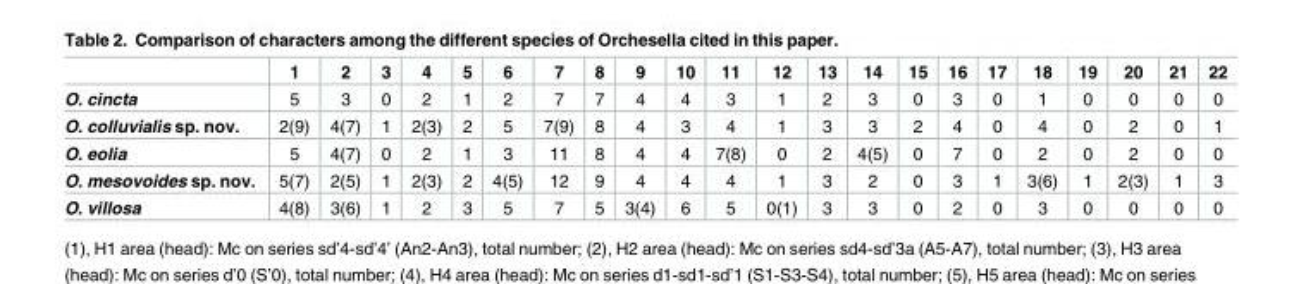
<table><thead><tr><td></td><td>1</td><td>2</td><td>3</td><td>4</td><td>5</td><td>6</td><td>7</td><td>8</td><td>9</td><td>10</td><td>11</td><td>12</td><td>13</td><td>14</td><td>15</td><td>16</td><td>17</td><td>18</td><td>19</td><td>20</td><td>21</td><td>22</td></tr></thead><tbody><tr><td>O. cincta</td><td>5</td><td>3</td><td>0</td><td>2</td><td>1</td><td>2</td><td>7</td><td>7</td><td>4</td><td>4</td><td>3</td><td>1</td><td>2</td><td>3</td><td>0</td><td>3</td><td>0</td><td>1</td><td>0</td><td>0</td><td>0</td><td>0</td></tr><tr><td>O. colluvialis sp. nov.</td><td>2(9)</td><td>4(7)</td><td>1</td><td>2(3)</td><td>2</td><td>5</td><td>7(9)</td><td>8</td><td>4</td><td>3</td><td>4</td><td>1</td><td>3</td><td>3</td><td>2</td><td>4</td><td>0</td><td>4</td><td>0</td><td>2</td><td>0</td><td>1</td></tr><tr><td>O. eolia</td><td>5</td><td>4(7)</td><td>0</td><td>2</td><td>1</td><td>3</td><td>11</td><td>8</td><td>4</td><td>4</td><td>7(8)</td><td>0</td><td>2</td><td>4(5)</td><td>0</td><td>7</td><td>0</td><td>2</td><td>0</td><td>2</td><td>0</td><td>0</td></tr><tr><td>O. mesovoides sp. nov.</td><td>5(7)</td><td>2(5)</td><td>1</td><td>2(3)</td><td>2</td><td>4(5)</td><td>12</td><td>9</td><td>4</td><td>4</td><td>4</td><td>1</td><td>3</td><td>2</td><td>0</td><td>3</td><td>1</td><td>3(6)</td><td>1</td><td>2(3)</td><td>1</td><td>3</td></tr><tr><td>O. villosa</td><td>4(8)</td><td>3(6)</td><td>1</td><td>2</td><td>3</td><td>5</td><td>7</td><td>5</td><td>3(4)</td><td>6</td><td>5</td><td>0(1)</td><td>3</td><td>3</td><td>0</td><td>2</td><td>0</td><td>3</td><td>0</td><td>0</td><td>0</td><td>0</td></tr></tbody></table>